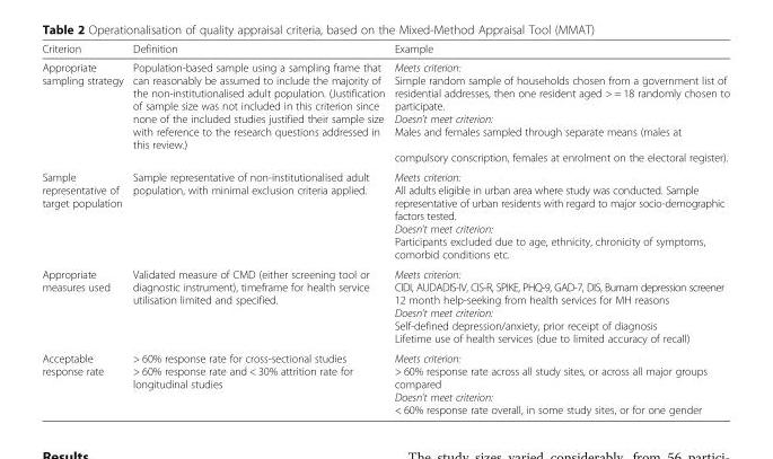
<table><thead><tr><td>Criterion</td><td>Definition</td><td>Example</td></tr></thead><tbody><tr><td>Appropriate sampling strategy</td><td>Population-based sample using a sampling frame that can reasonably be assumed to include the majority of the non-institutionalised adult population. (Justification of sample size was not included in this criterion since none of the included studies justified their sample size with reference to the research questions addressed in this review.)</td><td>Meets criterion: Simple random sample of households chosen from a government list of residential addresses, then one resident aged &gt; = 18 randomly chosen to participate. Doesn’t meet criterion: Males and females sampled through separate means (males at compulsory conscription, females at enrolment on the electoral register).</td></tr><tr><td>Sample representative of target population</td><td>Sample representative of non-institutionalised adult population, with minimal exclusion criteria applied.</td><td>Meets criterion: All adults eligible in urban area where study was conducted. Sample representative of urban residents with regard to major socio-demographic factors tested. Doesn’t meet criterion: Participants excluded due to age, ethnicity, chronicity of symptoms, comorbid conditions etc.</td></tr><tr><td>Appropriate measures used</td><td>Validated measure of CMD (either screening tool or diagnostic instrument), timeframe for health service utilisation limited and specified.</td><td>Meets criterion: CIDI, AUDADIS-IV, CIS-R, SPIKE, PHQ-9, GAD-7, DIS, Burnam depression screener 12 month help-seeking from health services for MH reasons Doesn’t meet criterion: Self-defined depression/anxiety, prior receipt of diagnosis Lifetime use of health services (due to limited accuracy of recall)</td></tr><tr><td>Acceptable response rate</td><td>&gt; 60% response rate for cross-sectional studies &gt; 60% response rate and &lt; 30% attrition rate for longitudinal studies</td><td>Meets criterion: &gt; 60% response rate across all study sites, or across all major groups compared Doesn’t meet criterion: &lt; 60% response rate overall, in some study sites, or for one gender</td></tr></tbody></table>